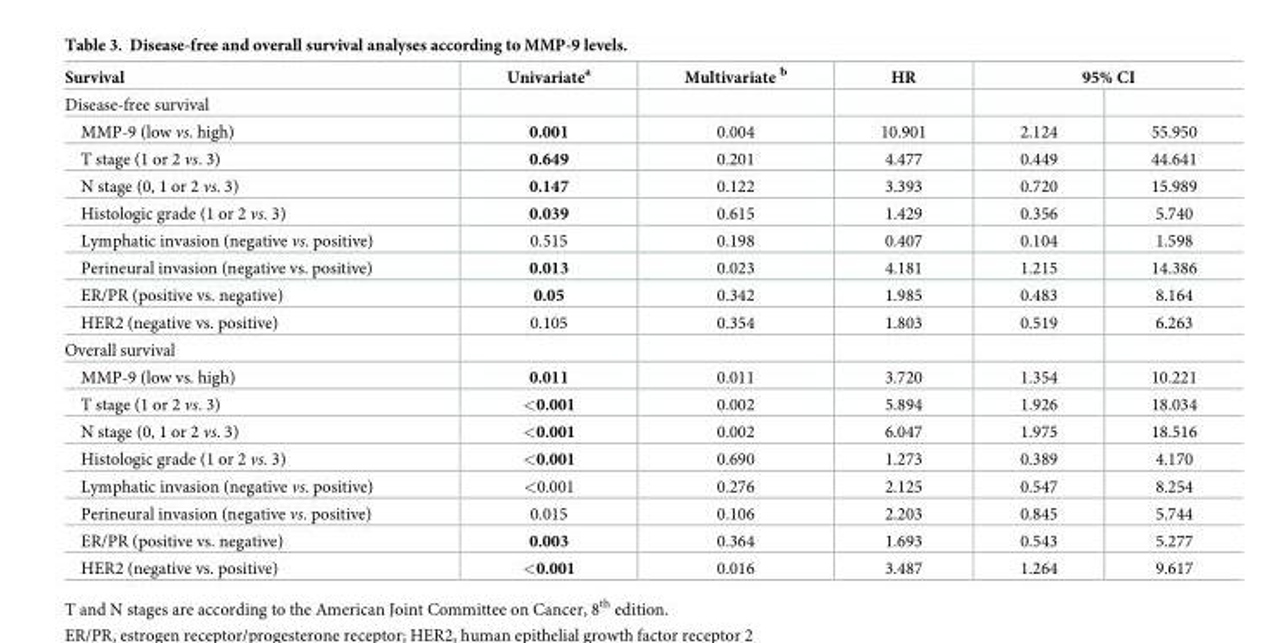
<table><thead><tr><td rowspan="2">Survival Disease-free survival</td><td rowspan="2">Univariate<sup>a</sup></td><td rowspan="2">Multivariate <sup>b</sup></td><td rowspan="2">HR</td><td colspan="2">95% CI</td></tr><tr><td></td><td></td></tr></thead><tbody><tr><td>MMP-9 (low vs. high)</td><td>0.001</td><td>0.004</td><td>10.901</td><td>2.124</td><td>55.950</td></tr><tr><td>T stage (1 or 2 vs. 3)</td><td>0.649</td><td>0.201</td><td>4.477</td><td>0.449</td><td>44.641</td></tr><tr><td>N stage (0, 1 or 2 vs. 3)</td><td>0.147</td><td>0.122</td><td>3.393</td><td>0.720</td><td>15.989</td></tr><tr><td>Histologic grade (1 or 2 vs. 3)</td><td>0.039</td><td>0.615</td><td>1.429</td><td>0.356</td><td>5.740</td></tr><tr><td>Lymphatic invasion (negative vs. positive)</td><td>0.515</td><td>0.198</td><td>0.407</td><td>0.104</td><td>1.598</td></tr><tr><td>Perineural invasion (negative vs. positive)</td><td>0.013</td><td>0.023</td><td>4.181</td><td>1.215</td><td>14.386</td></tr><tr><td>ER/PR (positive vs. negative)</td><td>0.05</td><td>0.342</td><td>1.985</td><td>0.483</td><td>8.164</td></tr><tr><td>HER2 (negative vs. positive)</td><td>0.105</td><td>0.354</td><td>1.803</td><td>0.519</td><td>6.263</td></tr><tr><td colspan="6">Overall survival</td></tr><tr><td>MMP-9 (low vs. high)</td><td>0.011</td><td>0.011</td><td>3.720</td><td>1.354</td><td>10.221</td></tr><tr><td>T stage (1 or 2 vs. 3)</td><td>&lt;0.001</td><td>0.002</td><td>5.894</td><td>1.926</td><td>18.034</td></tr><tr><td>N stage (0, 1 or 2 vs. 3)</td><td>&lt;0.001</td><td>0.002</td><td>6.047</td><td>1.975</td><td>18.516</td></tr><tr><td>Histologic grade (1 or 2 vs. 3)</td><td>&lt;0.001</td><td>0.690</td><td>1.273</td><td>0.389</td><td>4.170</td></tr><tr><td>Lymphatic invasion (negative vs. positive)</td><td>&lt;0.001</td><td>0.276</td><td>2.125</td><td>0.547</td><td>8.254</td></tr><tr><td>Perineural invasion (negative vs. positive)</td><td>0.015</td><td>0.106</td><td>2.203</td><td>0.845</td><td>5.744</td></tr><tr><td>ER/PR (positive vs. negative)</td><td>0.003</td><td>0.364</td><td>1.693</td><td>0.543</td><td>5.277</td></tr><tr><td>HER2 (negative vs. positive)</td><td>&lt;0.001</td><td>0.016</td><td>3.487</td><td>1.264</td><td>9.617</td></tr></tbody></table>